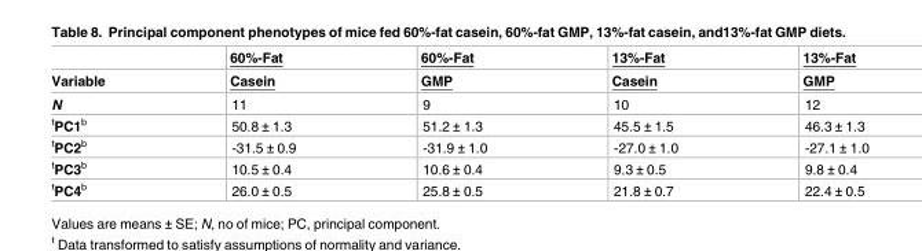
<table><thead><tr><td rowspan="2">Variable</td><td rowspan="2">60%-Fat Casein</td><td rowspan="2">60%-Fat GMP</td><td rowspan="2">13%-Fat Casein</td><td rowspan="2">13%-Fat GMP</td></tr><tr></tr></thead><tbody><tr><td>N</td><td>11</td><td>9</td><td>10</td><td>12</td></tr><tr><td><sup>t</sup>PC1<sup>b</sup></td><td>50.8 ± 1.3</td><td>51.2 ± 1.3</td><td>45.5 ± 1.5</td><td>46.3 ± 1.3</td></tr><tr><td><sup>t</sup>PC2<sup>b</sup></td><td>-31.5 ± 0.9</td><td>-31.9 ± 1.0</td><td>-27.0 ± 1.0</td><td>-27.1 ± 1.0</td></tr><tr><td><sup>t</sup>PC3<sup>b</sup></td><td>10.5 ± 0.4</td><td>10.6 ± 0.4</td><td>9.3 ± 0.5</td><td>9.8 ± 0.4</td></tr><tr><td><sup>t</sup>PC4<sup>b</sup></td><td>26.0 ± 0.5</td><td>25.8 ± 0.5</td><td>21.8 ± 0.7</td><td>22.4 ± 0.5</td></tr></tbody></table>